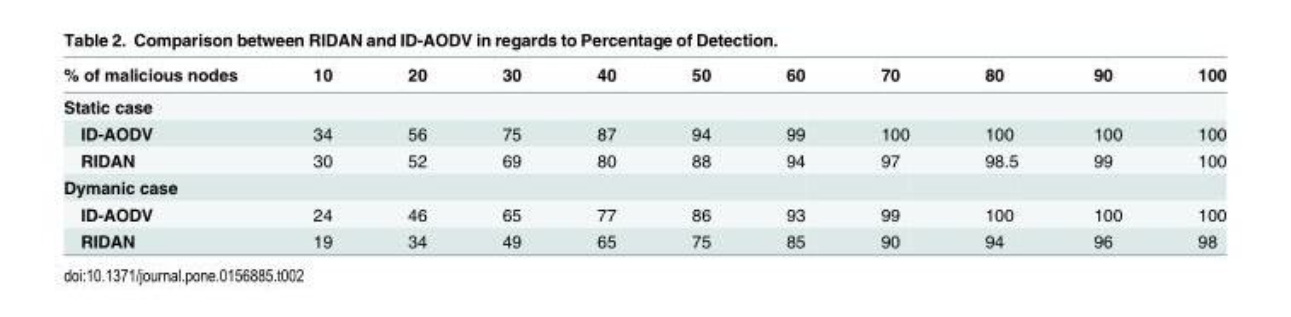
<table><thead><tr><td>% of malicious nodes</td><td>10</td><td>20</td><td>30</td><td>40</td><td>50</td><td>60</td><td>70</td><td>80</td><td>90</td><td>100</td></tr></thead><tbody><tr><td colspan="11">Static case</td></tr><tr><td>ID-AODV</td><td>34</td><td>56</td><td>75</td><td>87</td><td>94</td><td>99</td><td>100</td><td>100</td><td>100</td><td>100</td></tr><tr><td>RIDAN</td><td>30</td><td>52</td><td>69</td><td>80</td><td>88</td><td>94</td><td>97</td><td>98.5</td><td>99</td><td>100</td></tr><tr><td colspan="11">Dymanic case</td></tr><tr><td>ID-AODV</td><td>24</td><td>46</td><td>65</td><td>77</td><td>86</td><td>93</td><td>99</td><td>100</td><td>100</td><td>100</td></tr><tr><td>RIDAN</td><td>19</td><td>34</td><td>49</td><td>65</td><td>75</td><td>85</td><td>90</td><td>94</td><td>96</td><td>98</td></tr></tbody></table>